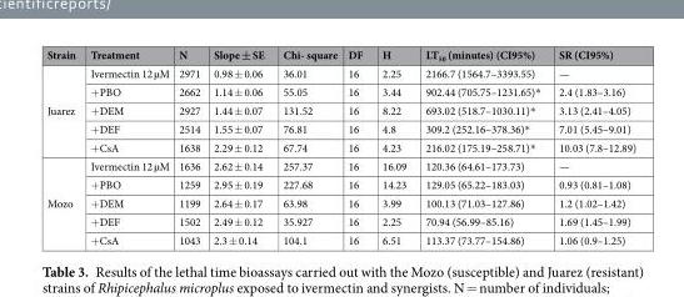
<table><thead><tr><td>Strain</td><td>Treatment</td><td>N</td><td>Slope ± SE</td><td>Chi- square</td><td>DF</td><td>H</td><td>LT<sub>50</sub> (minutes) (CI95%)</td><td>SR (CI95%)</td></tr></thead><tbody><tr><td rowspan="5">Juarez</td><td>Ivermectin 12 µM</td><td>2971</td><td>0.98 ± 0.06</td><td>36.01</td><td>16</td><td>2.25</td><td>2166.7 (1564.7–3393.55)</td><td>—</td></tr><tr><td>+PBO</td><td>2662</td><td>1.14 ± 0.06</td><td>55.05</td><td>16</td><td>3.44</td><td>902.44 (705.75–1231.65)*</td><td>2.4 (1.83–3.16)</td></tr><tr><td>+DEM</td><td>2927</td><td>1.44 ± 0.07</td><td>131.52</td><td>16</td><td>8.22</td><td>693.02 (518.7–1030.11)*</td><td>3.13 (2.41–4.05)</td></tr><tr><td>+DEF</td><td>2514</td><td>1.55 ± 0.07</td><td>76.81</td><td>16</td><td>4.8</td><td>309.2 (252.16–378.36)*</td><td>7.01 (5.45–9.01)</td></tr><tr><td>+CsA</td><td>1638</td><td>2.29 ± 0.12</td><td>67.74</td><td>16</td><td>4.23</td><td>216.02 (175.19–258.71)*</td><td>10.03 (7.8–12.89)</td></tr><tr><td rowspan="5">Mozo</td><td>Ivermectin 12 µM</td><td>1636</td><td>2.62 ± 0.14</td><td>257.37</td><td>16</td><td>16.09</td><td>120.36 (64.61–173.73)</td><td>—</td></tr><tr><td>+PBO</td><td>1259</td><td>2.95 ± 0.19</td><td>227.68</td><td>16</td><td>14.23</td><td>129.05 (65.22–183.03)</td><td>0.93 (0.81–1.08)</td></tr><tr><td>+DEM</td><td>1199</td><td>2.64 ± 0.17</td><td>63.98</td><td>16</td><td>3.99</td><td>100.13 (71.03–127.86)</td><td>1.2 (1.02–1.42)</td></tr><tr><td>+DEF</td><td>1502</td><td>2.49 ± 0.12</td><td>35.927</td><td>16</td><td>2.25</td><td>70.94 (56.99–85.16)</td><td>1.69 (1.45–1.99)</td></tr><tr><td>+CsA</td><td>1043</td><td>2.3 ± 0.14</td><td>104.1</td><td>16</td><td>6.51</td><td>113.37 (73.77–154.86)</td><td>1.06 (0.9–1.25)</td></tr></tbody></table>